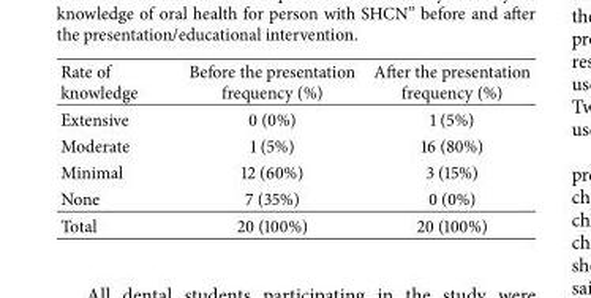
<table><thead><tr><td>Rate of knowledge</td><td>Before the presentation frequency (%)</td><td>After the presentation frequency (%)</td></tr></thead><tbody><tr><td>Extensive</td><td>0 (0%)</td><td>1 (5%)</td></tr><tr><td>Moderate</td><td>1 (5%)</td><td>16 (80%)</td></tr><tr><td>Minimal</td><td>12 (60%)</td><td>3 (15%)</td></tr><tr><td>None</td><td>7 (35%)</td><td>0 (0%)</td></tr><tr><td>Total</td><td>20 (100%)</td><td>20 (100%)</td></tr></tbody></table>